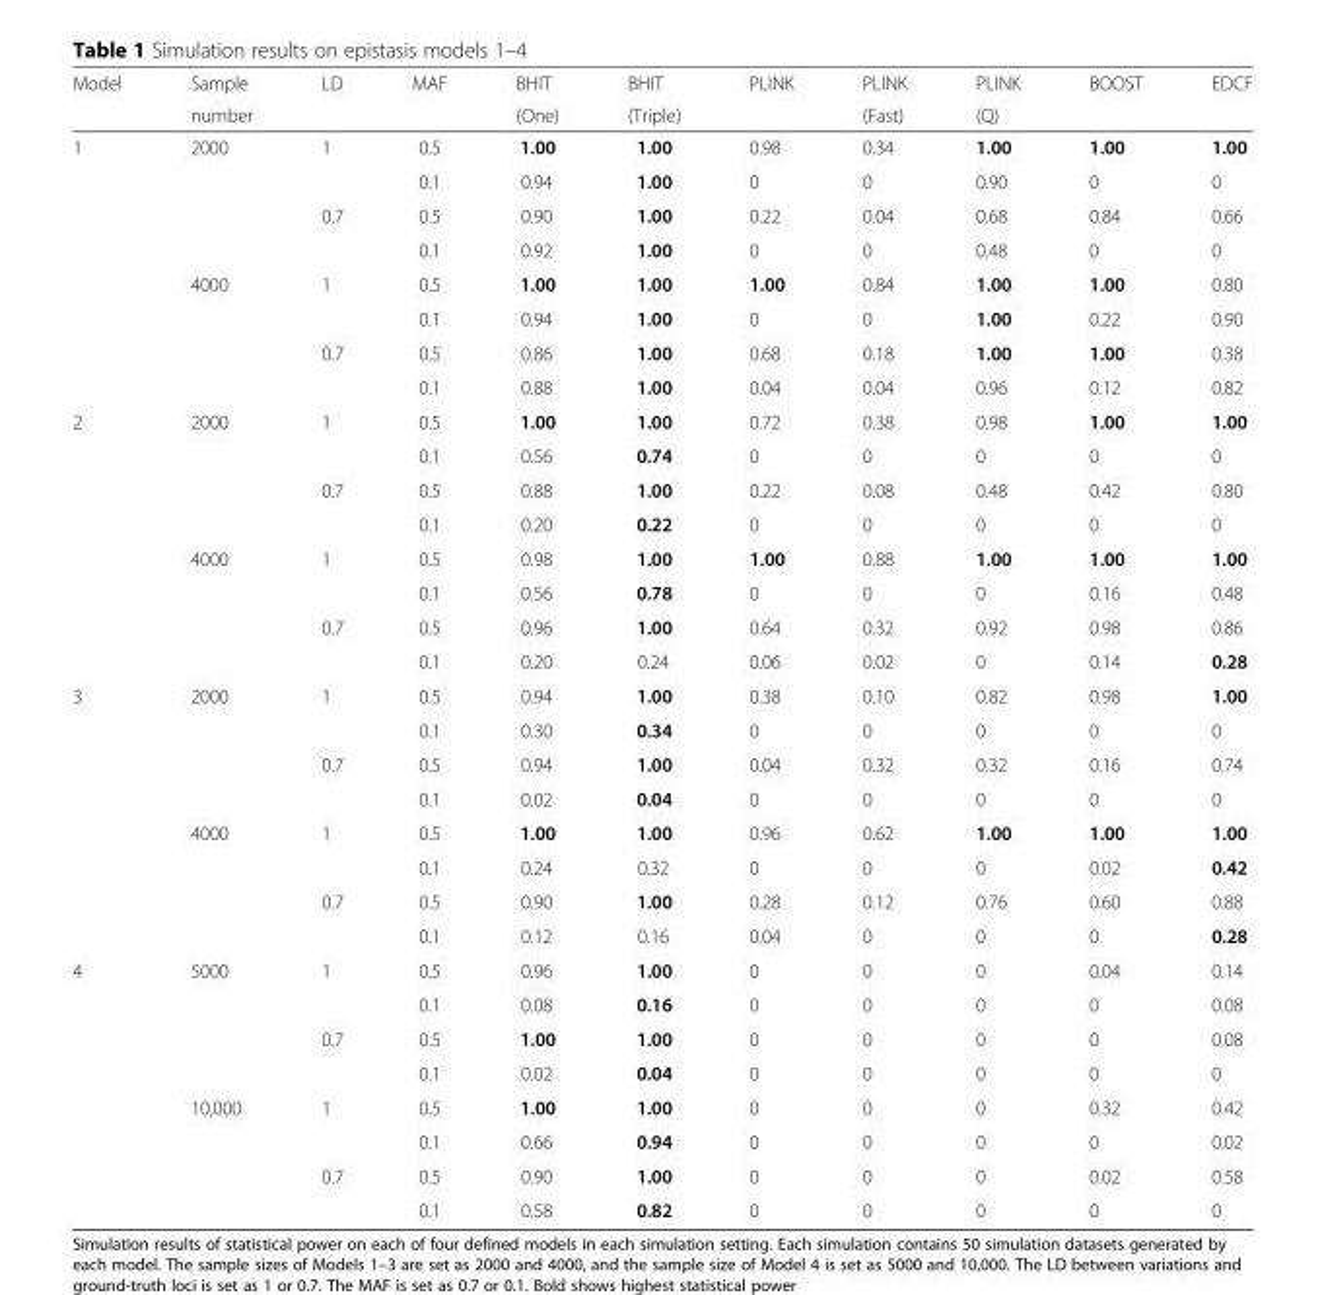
<table><thead><tr><td rowspan="2">Model</td><td rowspan="2">Sample number</td><td rowspan="2">LD</td><td rowspan="2">MAF</td><td rowspan="2">BHIT (One)</td><td rowspan="2">BHIT (Triple)</td><td rowspan="2">PLINK</td><td rowspan="2">PLINK (Fast)</td><td rowspan="2">PLINK (Q)</td><td rowspan="2">BOOST</td><td rowspan="2">EDCF</td></tr><tr></tr></thead><tbody><tr><td rowspan="8">1</td><td>2000</td><td>1</td><td>0.5</td><td>1.00</td><td>1.00</td><td>0.98</td><td>0.34</td><td>1.00</td><td>1.00</td><td>1.00</td></tr><tr><td></td><td></td><td>0.1</td><td>0.94</td><td>1.00</td><td>0</td><td>0</td><td>0.90</td><td>0</td><td>0</td></tr><tr><td></td><td>0.7</td><td>0.5</td><td>0.90</td><td>1.00</td><td>0.22</td><td>0.04</td><td>0.68</td><td>0.84</td><td>0.66</td></tr><tr><td></td><td></td><td>0.1</td><td>0.92</td><td>1.00</td><td>0</td><td>0</td><td>0.48</td><td>0</td><td>0</td></tr><tr><td>4000</td><td>1</td><td>0.5</td><td>1.00</td><td>1.00</td><td>1.00</td><td>0.84</td><td>1.00</td><td>1.00</td><td>0.80</td></tr><tr><td></td><td></td><td>0.1</td><td>0.94</td><td>1.00</td><td>0</td><td>0</td><td>1.00</td><td>0.22</td><td>0.90</td></tr><tr><td></td><td>0.7</td><td>0.5</td><td>0.86</td><td>1.00</td><td>0.68</td><td>0.18</td><td>1.00</td><td>1.00</td><td>0.38</td></tr><tr><td></td><td></td><td>0.1</td><td>0.88</td><td>1.00</td><td>0.04</td><td>0.04</td><td>0.96</td><td>0.12</td><td>0.82</td></tr><tr><td rowspan="8">2</td><td>2000</td><td>1</td><td>0.5</td><td>1.00</td><td>1.00</td><td>0.72</td><td>0.38</td><td>0.98</td><td>1.00</td><td>1.00</td></tr><tr><td></td><td></td><td>0.1</td><td>0.56</td><td>0.74</td><td>0</td><td>0</td><td>0</td><td>0</td><td>0</td></tr><tr><td></td><td>0.7</td><td>0.5</td><td>0.88</td><td>1.00</td><td>0.22</td><td>0.08</td><td>0.48</td><td>0.42</td><td>0.80</td></tr><tr><td></td><td></td><td>0.1</td><td>0.20</td><td>0.22</td><td>0</td><td>0</td><td>0</td><td>0</td><td>0</td></tr><tr><td>4000</td><td>1</td><td>0.5</td><td>0.98</td><td>1.00</td><td>1.00</td><td>0.88</td><td>1.00</td><td>1.00</td><td>1.00</td></tr><tr><td></td><td></td><td>0.1</td><td>0.56</td><td>0.78</td><td>0</td><td>0</td><td>0</td><td>0.16</td><td>0.48</td></tr><tr><td></td><td>0.7</td><td>0.5</td><td>0.96</td><td>1.00</td><td>0.64</td><td>0.32</td><td>0.92</td><td>0.98</td><td>0.86</td></tr><tr><td></td><td></td><td>0.1</td><td>0.20</td><td>0.24</td><td>0.06</td><td>0.02</td><td>0</td><td>0.14</td><td>0.28</td></tr><tr><td rowspan="8">3</td><td>2000</td><td>1</td><td>0.5</td><td>0.94</td><td>1.00</td><td>0.38</td><td>0.10</td><td>0.82</td><td>0.98</td><td>1.00</td></tr><tr><td></td><td></td><td>0.1</td><td>0.30</td><td>0.34</td><td>0</td><td>0</td><td>0</td><td>0</td><td>0</td></tr><tr><td></td><td>0.7</td><td>0.5</td><td>0.94</td><td>1.00</td><td>0.04</td><td>0.32</td><td>0.32</td><td>0.16</td><td>0.74</td></tr><tr><td></td><td></td><td>0.1</td><td>0.02</td><td>0.04</td><td>0</td><td>0</td><td>0</td><td>0</td><td>0</td></tr><tr><td>4000</td><td>1</td><td>0.5</td><td>1.00</td><td>1.00</td><td>0.96</td><td>0.62</td><td>1.00</td><td>1.00</td><td>1.00</td></tr><tr><td></td><td></td><td>0.1</td><td>0.24</td><td>0.32</td><td>0</td><td>0</td><td>0</td><td>0.02</td><td>0.42</td></tr><tr><td></td><td>0.7</td><td>0.5</td><td>0.90</td><td>1.00</td><td>0.28</td><td>0.12</td><td>0.76</td><td>0.60</td><td>0.88</td></tr><tr><td></td><td></td><td>0.1</td><td>0.12</td><td>0.16</td><td>0.04</td><td>0</td><td>0</td><td>0</td><td>0.28</td></tr><tr><td rowspan="8">4</td><td>5000</td><td>1</td><td>0.5</td><td>0.96</td><td>1.00</td><td>0</td><td>0</td><td>0</td><td>0.04</td><td>0.14</td></tr><tr><td></td><td></td><td>0.1</td><td>0.08</td><td>0.16</td><td>0</td><td>0</td><td>0</td><td>0</td><td>0.08</td></tr><tr><td></td><td>0.7</td><td>0.5</td><td>1.00</td><td>1.00</td><td>0</td><td>0</td><td>0</td><td>0</td><td>0.08</td></tr><tr><td></td><td></td><td>0.1</td><td>0.02</td><td>0.04</td><td>0</td><td>0</td><td>0</td><td>0</td><td>0</td></tr><tr><td>10,000</td><td>1</td><td>0.5</td><td>1.00</td><td>1.00</td><td>0</td><td>0</td><td>0</td><td>0.32</td><td>0.42</td></tr><tr><td></td><td></td><td>0.1</td><td>0.66</td><td>0.94</td><td>0</td><td>0</td><td>0</td><td>0</td><td>0.02</td></tr><tr><td></td><td>0.7</td><td>0.5</td><td>0.90</td><td>1.00</td><td>0</td><td>0</td><td>0</td><td>0.02</td><td>0.58</td></tr><tr><td></td><td></td><td>0.1</td><td>0.58</td><td>0.82</td><td>0</td><td>0</td><td>0</td><td>0</td><td>0</td></tr></tbody></table>